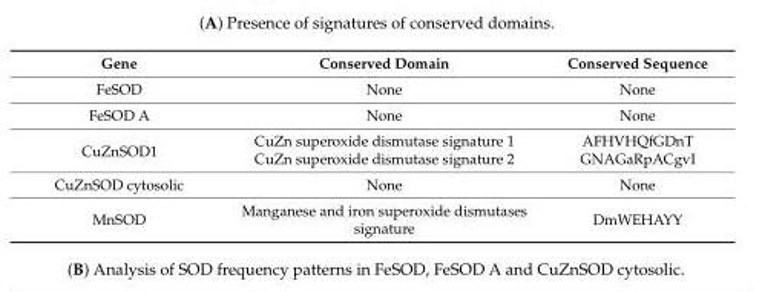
<table><thead><tr><td>Gene</td><td>Conserved Domain</td><td>Conserved Sequence</td></tr></thead><tbody><tr><td>FeSOD</td><td>None</td><td>None</td></tr><tr><td>FeSOD A</td><td>None</td><td>None</td></tr><tr><td rowspan="2">CuZnSOD1</td><td>CuZn superoxide dismutase signature 1</td><td>AFHVHQfGDnT</td></tr><tr><td>CuZn superoxide dismutase signature 2</td><td>GNAGaRpACgvI</td></tr><tr><td>CuZnSOD cytosolic</td><td>None</td><td>None</td></tr><tr><td>MnSOD</td><td>Manganese and iron superoxide dismutases signature</td><td>DmWEHAYY</td></tr></tbody></table>